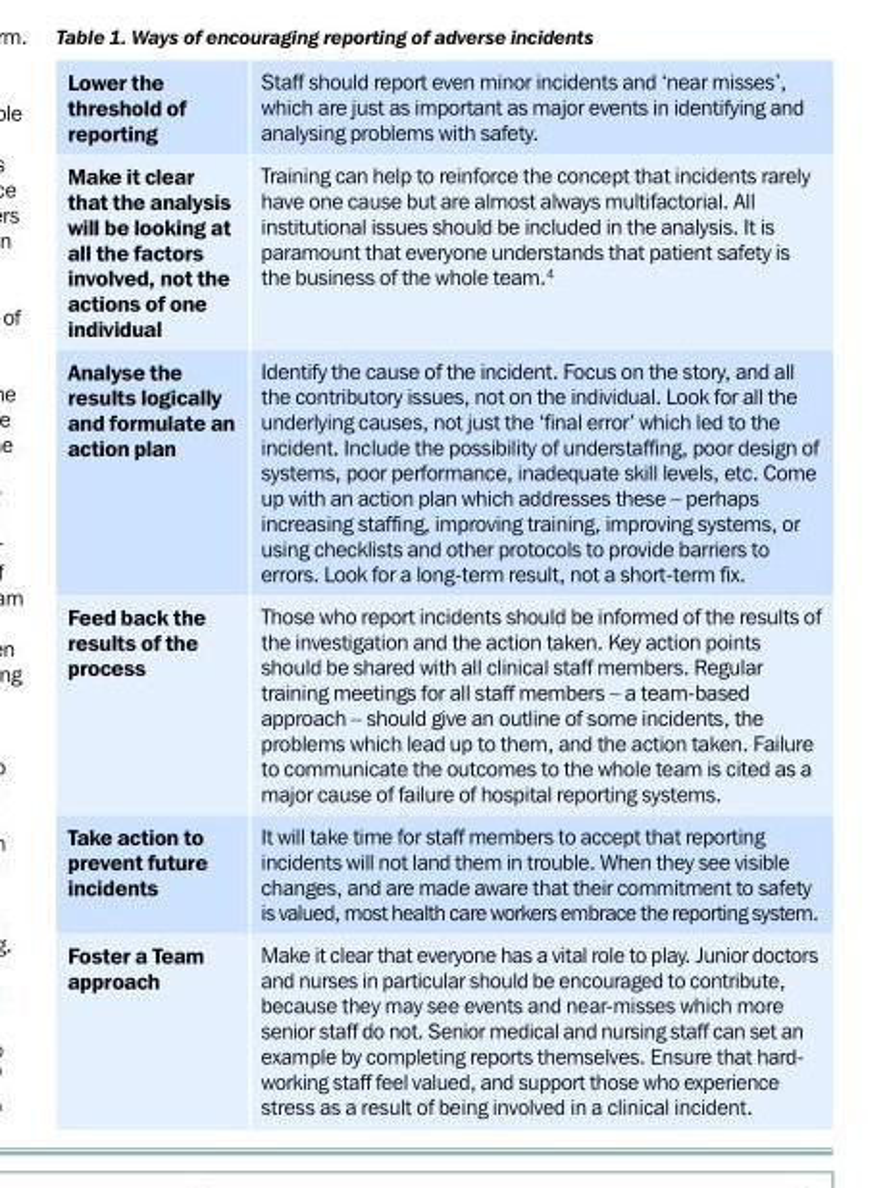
<table><tbody><tr><td>Lower the threshold of reporting</td><td>Staff should report even minor incidents and ‘near misses’, which are just as important as major events in identifying and analysing problems with safety.</td></tr><tr><td>Make it clear that the analysis will be looking at all the factors involved, not the actions of one individual</td><td>Training can help to reinforce the concept that incidents rarely have one cause but are almost always multifactorial. All institutional issues should be included in the analysis. It is paramount that everyone understands that patient safety is the business of the whole team.<sup>4</sup></td></tr><tr><td>Analyse the results logically and formulate an action plan</td><td>Identify the cause of the incident. Focus on the story, and all the contributory issues, not on the individual. Look for all the underlying causes, not just the ‘final error’ which led to the incident. Include the possibility of understaffing, poor design of systems, poor performance, inadequate skill levels, etc. Come up with an action plan which addresses these – perhaps increasing staffing, improving training, improving systems, or using checklists and other protocols to provide barriers to errors. Look for a long-term result, not a short-term fix.</td></tr><tr><td>Feed back the results of the process</td><td>Those who report incidents should be informed of the results of the investigation and the action taken. Key action points should be shared with all clinical staff members. Regular training meetings for all staff members – a team-based approach – should give an outline of some incidents, the problems which lead up to them, and the action taken. Failure to communicate the outcomes to the whole team is cited as a major cause of failure of hospital reporting systems.</td></tr><tr><td>Take action to prevent future incidents</td><td>It will take time for staff members to accept that reporting incidents will not land them in trouble. When they see visible changes, and are made aware that their commitment to safety is valued, most health care workers embrace the reporting system.</td></tr><tr><td>Foster a Team approach</td><td>Make it clear that everyone has a vital role to play. Junior doctors and nurses in particular should be encouraged to contribute, because they may see events and near-misses which more senior staff do not. Senior medical and nursing staff can set an example by completing reports themselves. Ensure that hard- working staff feel valued, and support those who experience stress as a result of being involved in a clinical incident.</td></tr></tbody></table>